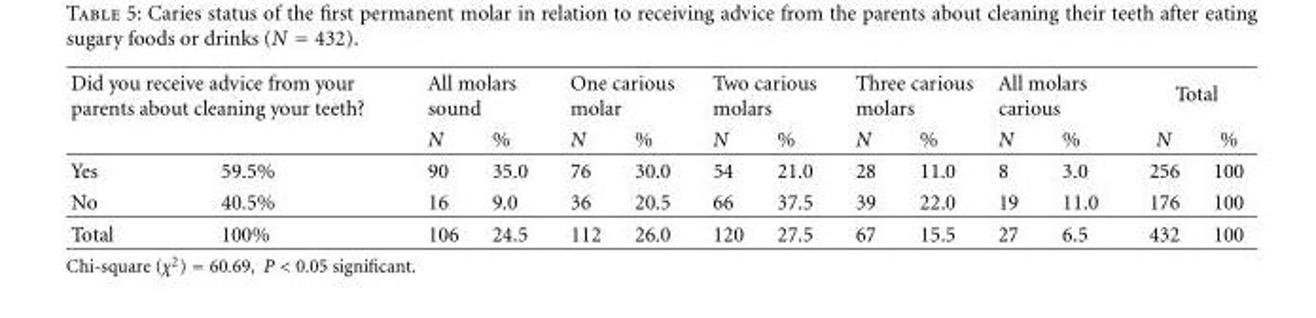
<table><thead><tr><td colspan="2">Did you receive advice from your parents about cleaning your teeth?</td><td colspan="2">All molars sound</td><td colspan="2">One carious molar</td><td colspan="2">Two carious molars</td><td colspan="2">Three carious molars</td><td colspan="2">All molars carious</td><td colspan="2">Total</td></tr><tr><td></td><td></td><td>N</td><td>%</td><td>N</td><td>%</td><td>N</td><td>%</td><td>N</td><td>%</td><td>N</td><td>%</td><td>N</td><td>%</td></tr></thead><tbody><tr><td>Yes</td><td>59.5%</td><td>90</td><td>35.0</td><td>76</td><td>30.0</td><td>54</td><td>21.0</td><td>28</td><td>11.0</td><td>8</td><td>3.0</td><td>256</td><td>100</td></tr><tr><td>No</td><td>40.5%</td><td>16</td><td>9.0</td><td>36</td><td>20.5</td><td>66</td><td>37.5</td><td>39</td><td>22.0</td><td>19</td><td>11.0</td><td>176</td><td>100</td></tr><tr><td>Total</td><td>100%</td><td>106</td><td>24.5</td><td>112</td><td>26.0</td><td>120</td><td>27.5</td><td>67</td><td>15.5</td><td>27</td><td>6.5</td><td>432</td><td>100</td></tr></tbody></table>